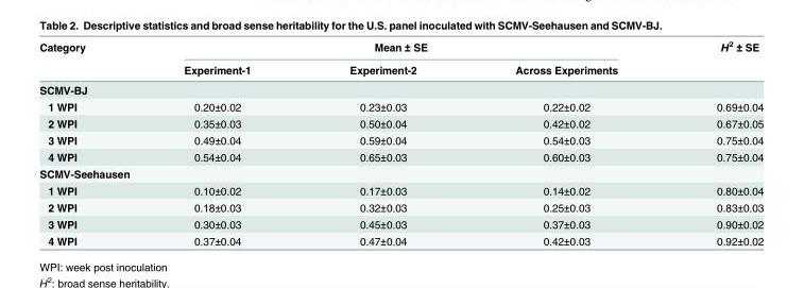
<table><thead><tr><td rowspan="2">Category</td><td colspan="3">Mean ± SE</td><td rowspan="2">H<sup>2</sup> ± SE</td></tr><tr><td>Experiment-1</td><td>Experiment-2</td><td>Across Experiments</td></tr></thead><tbody><tr><td colspan="5">SCMV-BJ</td></tr><tr><td>1 WPI</td><td>0.20±0.02</td><td>0.23±0.03</td><td>0.22±0.02</td><td>0.69±0.04</td></tr><tr><td>2 WPI</td><td>0.35±0.03</td><td>0.50±0.04</td><td>0.42±0.02</td><td>0.67±0.05</td></tr><tr><td>3 WPI</td><td>0.49±0.04</td><td>0.59±0.04</td><td>0.54±0.03</td><td>0.75±0.04</td></tr><tr><td>4 WPI</td><td>0.54±0.04</td><td>0.65±0.03</td><td>0.60±0.03</td><td>0.75±0.04</td></tr><tr><td colspan="5">SCMV-Seehausen</td></tr><tr><td>1 WPI</td><td>0.10±0.02</td><td>0.17±0.03</td><td>0.14±0.02</td><td>0.80±0.04</td></tr><tr><td>2 WPI</td><td>0.18±0.03</td><td>0.32±0.03</td><td>0.25±0.03</td><td>0.83±0.03</td></tr><tr><td>3 WPI</td><td>0.30±0.03</td><td>0.45±0.03</td><td>0.37±0.03</td><td>0.90±0.02</td></tr><tr><td>4 WPI</td><td>0.37±0.04</td><td>0.47±0.04</td><td>0.42±0.03</td><td>0.92±0.02</td></tr></tbody></table>